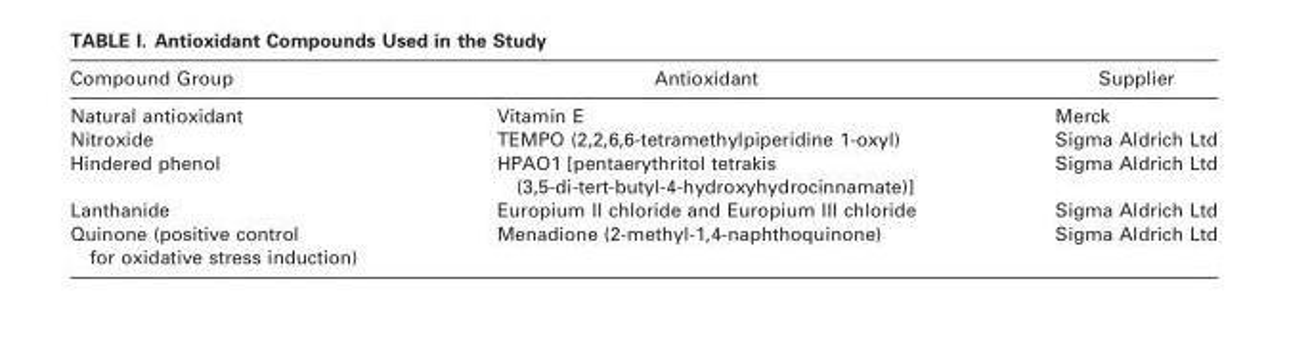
<table><thead><tr><td>Compound Group</td><td>Antioxidant</td><td>Supplier</td></tr></thead><tbody><tr><td>Natural antioxidant</td><td>Vitamin E</td><td>Merck</td></tr><tr><td>Nitroxide</td><td>TEMPO (2,2,6,6-tetramethylpiperidine 1-oxyl)</td><td>Sigma Aldrich Ltd</td></tr><tr><td>Hindered phenol</td><td>HPAO1 [pentaerythritol tetrakis (3,5-di-tert-butyl-4-hydroxyhydrocinnamate)]</td><td>Sigma Aldrich Ltd</td></tr><tr><td>Lanthanide</td><td>Europium II chloride and Europium III chloride</td><td>Sigma Aldrich Ltd</td></tr><tr><td>Quinone (positive control for oxidative stress induction)</td><td>Menadione (2-methyl-1,4-naphthoquinone)</td><td>Sigma Aldrich Ltd</td></tr></tbody></table>